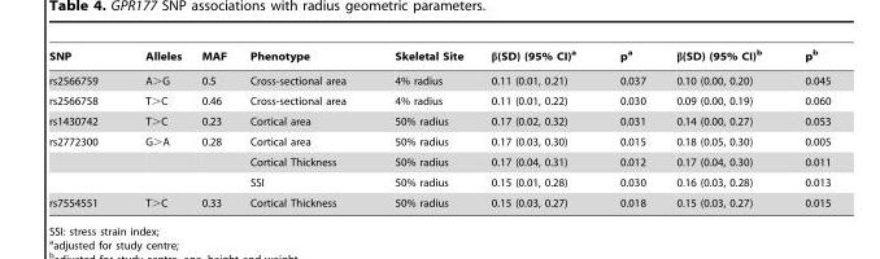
<table><thead><tr><td>SNP</td><td>Alleles</td><td>MAF</td><td>Phenotype</td><td>Skeletal Site</td><td>β(SD) (95% CI)<sup>a</sup></td><td>p<sup>a</sup></td><td>β(SD) (95% CI)<sup>b</sup></td><td>p<sup>b</sup></td></tr></thead><tbody><tr><td>rs2566759</td><td>A&gt;G</td><td>0.5</td><td>Cross-sectional area</td><td>4% radius</td><td>0.11 (0.01, 0.21)</td><td>0.037</td><td>0.10 (0.00, 0.20)</td><td>0.045</td></tr><tr><td>rs2566758</td><td>T&gt;C</td><td>0.46</td><td>Cross-sectional area</td><td>4% radius</td><td>0.11 (0.01, 0.22)</td><td>0.030</td><td>0.09 (0.00, 0.19)</td><td>0.060</td></tr><tr><td>rs1430742</td><td>T&gt;C</td><td>0.23</td><td>Cortical area</td><td>50% radius</td><td>0.17 (0.02, 0.32)</td><td>0.031</td><td>0.14 (0.00, 0.27)</td><td>0.053</td></tr><tr><td rowspan="3">rs2772300</td><td>G&gt;A</td><td>0.28</td><td>Cortical area</td><td>50% radius</td><td>0.17 (0.03, 0.30)</td><td>0.015</td><td>0.18 (0.05, 0.30)</td><td>0.005</td></tr><tr><td></td><td></td><td>Cortical Thickness</td><td>50% radius</td><td>0.17 (0.04, 0.31)</td><td>0.012</td><td>0.17 (0.04, 0.30)</td><td>0.011</td></tr><tr><td></td><td></td><td>SSI</td><td>50% radius</td><td>0.15 (0.01, 0.28)</td><td>0.030</td><td>0.16 (0.03, 0.28)</td><td>0.013</td></tr><tr><td>rs7554551</td><td>T&gt;C</td><td>0.33</td><td>Cortical Thickness</td><td>50% radius</td><td>0.15 (0.03, 0.27)</td><td>0.018</td><td>0.15 (0.03, 0.27)</td><td>0.015</td></tr></tbody></table>